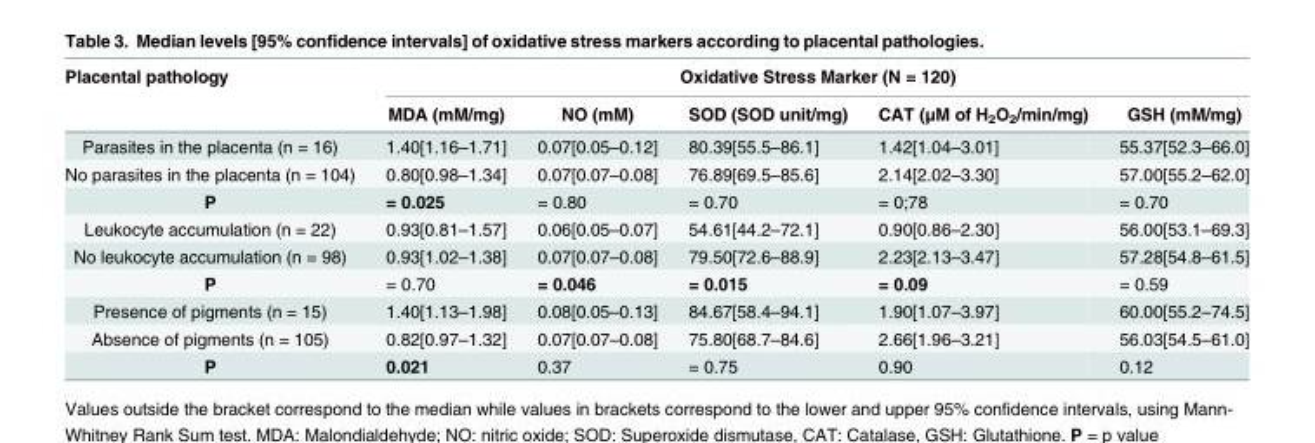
<table><thead><tr><td rowspan="2">Placental pathology</td><td colspan="5">Oxidative Stress Marker (N = 120)</td></tr><tr><td>MDA (mM/mg)</td><td>NO (mM)</td><td>SOD (SOD unit/mg)</td><td>CAT (μM of H<sub>2</sub>O<sub>2</sub>/min/mg)</td><td>GSH (mM/mg)</td></tr></thead><tbody><tr><td>Parasites in the placenta (n = 16)</td><td>1.40[1.16–1.71]</td><td>0.07[0.05–0.12]</td><td>80.39[55.5–86.1]</td><td>1.42[1.04–3.01]</td><td>55.37[52.3–66.0]</td></tr><tr><td>No parasites in the placenta (n = 104)</td><td>0.80[0.98–1.34]</td><td>0.07[0.07–0.08]</td><td>76.89[69.5–85.6]</td><td>2.14[2.02–3.30]</td><td>57.00[55.2–62.0]</td></tr><tr><td>P</td><td>= 0.025</td><td>= 0.80</td><td>= 0.70</td><td>= 0;78</td><td>= 0.70</td></tr><tr><td>Leukocyte accumulation (n = 22)</td><td>0.93[0.81–1.57]</td><td>0.06[0.05–0.07]</td><td>54.61[44.2–72.1]</td><td>0.90[0.86–2.30]</td><td>56.00[53.1–69.3]</td></tr><tr><td>No leukocyte accumulation (n = 98)</td><td>0.93[1.02–1.38]</td><td>0.07[0.07–0.08]</td><td>79.50[72.6–88.9]</td><td>2.23[2.13–3.47]</td><td>57.28[54.8–61.5]</td></tr><tr><td>P</td><td>= 0.70</td><td>= 0.046</td><td>= 0.015</td><td>= 0.09</td><td>= 0.59</td></tr><tr><td>Presence of pigments (n = 15)</td><td>1.40[1.13–1.98]</td><td>0.08[0.05–0.13]</td><td>84.67[58.4–94.1]</td><td>1.90[1.07–3.97]</td><td>60.00[55.2–74.5]</td></tr><tr><td>Absence of pigments (n = 105)</td><td>0.82[0.97–1.32]</td><td>0.07[0.07–0.08]</td><td>75.80[68.7–84.6]</td><td>2.66[1.96–3.21]</td><td>56.03[54.5–61.0]</td></tr><tr><td>P</td><td>0.021</td><td>0.37</td><td>= 0.75</td><td>0.90</td><td>0.12</td></tr></tbody></table>